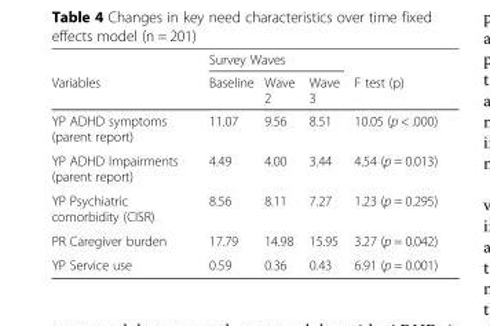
<table><thead><tr><td rowspan="2">Variables</td><td colspan="3">Survey Waves</td><td rowspan="2">F test (p)</td></tr><tr><td>Baseline</td><td>Wave 2</td><td>Wave 3</td></tr></thead><tbody><tr><td>YP ADHD symptoms (parent report)</td><td>11.07</td><td>9.56</td><td>8.51</td><td>10.05 (p &lt; .000)</td></tr><tr><td>YP ADHD Impairments (parent report)</td><td>4.49</td><td>4.00</td><td>3.44</td><td>4.54 (p = 0.013)</td></tr><tr><td>YP Psychiatric comorbidity (CISR)</td><td>8.56</td><td>8.11</td><td>7.27</td><td>1.23 (p = 0.295)</td></tr><tr><td>PR Caregiver burden</td><td>17.79</td><td>14.98</td><td>15.95</td><td>3.27 (p = 0.042)</td></tr><tr><td>YP Service use</td><td>0.59</td><td>0.36</td><td>0.43</td><td>6.91 (p = 0.001)</td></tr></tbody></table>